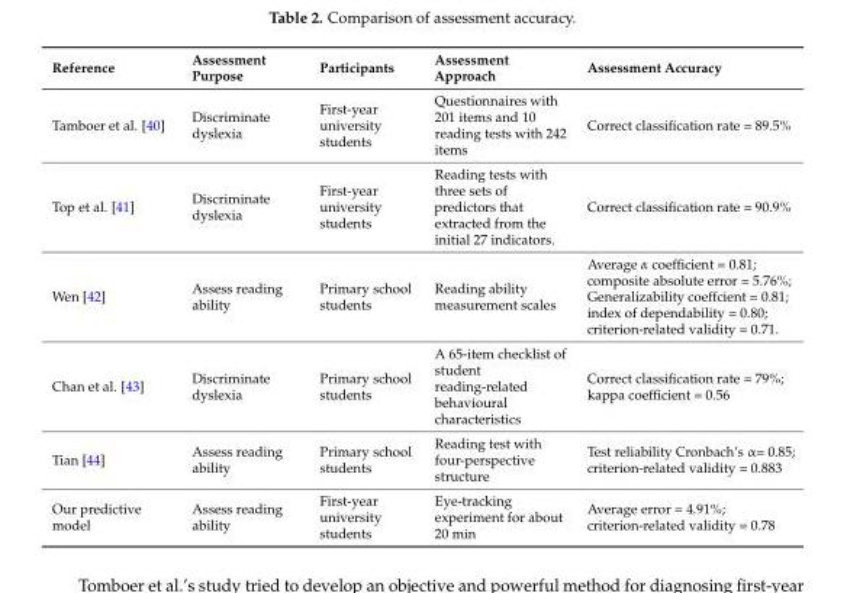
<table><thead><tr><td>Reference</td><td>Assessment Purpose</td><td>Participants</td><td>Assessment Approach</td><td>Assessment Accuracy</td></tr></thead><tbody><tr><td>Tamboer et al. [40]</td><td>Discriminate dyslexia</td><td>First-year university students</td><td>Questionnaires with 201 items and 10 reading tests with 242 items</td><td>Correct classification rate = 89.5%</td></tr><tr><td>Top et al. [41]</td><td>Discriminate dyslexia</td><td>First-year university students</td><td>Reading tests with three sets of predictors that extracted from the initial 27 indicators.</td><td>Correct classification rate = 90.9%</td></tr><tr><td>Wen [42]</td><td>Assess reading ability</td><td>Primary school students</td><td>Reading ability measurement scales</td><td>Average α coefficient = 0.81; composite absolute error = 5.76%; Generalizability coeffcient = 0.81; index of dependability = 0.80; criterion-related validity = 0.71.</td></tr><tr><td>Chan et al. [43]</td><td>Discriminate dyslexia</td><td>Primary school students</td><td>A 65-item checklist of student reading-related behavioural characteristics</td><td>Correct classification rate = 79%; kappa coefficient = 0.56</td></tr><tr><td>Tian [44]</td><td>Assess reading ability</td><td>Primary school students</td><td>Reading test with four-perspective structure</td><td>Test reliability Cronbach’s α= 0.85; criterion-related validity = 0.883</td></tr><tr><td>Our predictive model</td><td>Assess reading ability</td><td>First-year university students</td><td>Eye-tracking experiment for about 20 min</td><td>Average error = 4.91%; criterion-related validity = 0.78</td></tr></tbody></table>